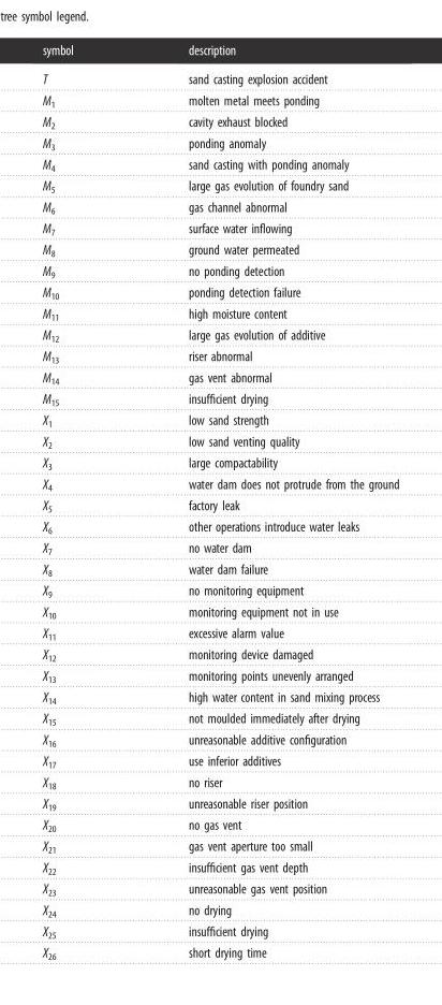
<table><thead><tr><td>symbol</td><td>description</td></tr></thead><tbody><tr><td>T</td><td>sand casting explosion accident</td></tr><tr><td>M<sub>1</sub></td><td>molten metal meets ponding</td></tr><tr><td>M<sub>2</sub></td><td>cavity exhaust blocked</td></tr><tr><td>M<sub>3</sub></td><td>ponding anomaly</td></tr><tr><td>M<sub>4</sub></td><td>sand casting with ponding anomaly</td></tr><tr><td>M<sub>5</sub></td><td>large gas evolution of foundry sand</td></tr><tr><td>M<sub>6</sub></td><td>gas channel abnormal</td></tr><tr><td>M<sub>7</sub></td><td>surface water inflowing</td></tr><tr><td>M<sub>8</sub></td><td>ground water permeated</td></tr><tr><td>M<sub>9</sub></td><td>no ponding detection</td></tr><tr><td>M<sub>10</sub></td><td>ponding detection failure</td></tr><tr><td>M<sub>11</sub></td><td>high moisture content</td></tr><tr><td>M<sub>12</sub></td><td>large gas evolution of additive</td></tr><tr><td>M<sub>13</sub></td><td>riser abnormal</td></tr><tr><td>M<sub>14</sub></td><td>gas vent abnormal</td></tr><tr><td>M<sub>15</sub></td><td>insufficient drying</td></tr><tr><td>X<sub>1</sub></td><td>low sand strength</td></tr><tr><td>X<sub>2</sub></td><td>low sand venting quality</td></tr><tr><td>X<sub>3</sub></td><td>large compactability</td></tr><tr><td>X<sub>4</sub></td><td>water dam does not protrude from the ground</td></tr><tr><td>X<sub>5</sub></td><td>factory leak</td></tr><tr><td>X<sub>6</sub></td><td>other operations introduce water leaks</td></tr><tr><td>X<sub>7</sub></td><td>no water dam</td></tr><tr><td>X<sub>8</sub></td><td>water dam failure</td></tr><tr><td>X<sub>9</sub></td><td>no monitoring equipment</td></tr><tr><td>X<sub>10</sub></td><td>monitoring equipment not in use</td></tr><tr><td>X<sub>11</sub></td><td>excessive alarm value</td></tr><tr><td>X<sub>12</sub></td><td>monitoring device damaged</td></tr><tr><td>X<sub>13</sub></td><td>monitoring points unevenly arranged</td></tr><tr><td>X<sub>14</sub></td><td>high water content in sand mixing process</td></tr><tr><td>X<sub>15</sub></td><td>not moulded immediately after drying</td></tr><tr><td>X<sub>16</sub></td><td>unreasonable additive configuration</td></tr><tr><td>X<sub>17</sub></td><td>use inferior additives</td></tr><tr><td>X<sub>18</sub></td><td>no riser</td></tr><tr><td>X<sub>19</sub></td><td>unreasonable riser position</td></tr><tr><td>X<sub>20</sub></td><td>no gas vent</td></tr><tr><td>X<sub>21</sub></td><td>gas vent aperture too small</td></tr><tr><td>X<sub>22</sub></td><td>insufficient gas vent depth</td></tr><tr><td>X<sub>23</sub></td><td>unreasonable gas vent position</td></tr><tr><td>X<sub>24</sub></td><td>no drying</td></tr><tr><td>X<sub>25</sub></td><td>insufficient drying</td></tr><tr><td>X<sub>26</sub></td><td>short drying time</td></tr></tbody></table>